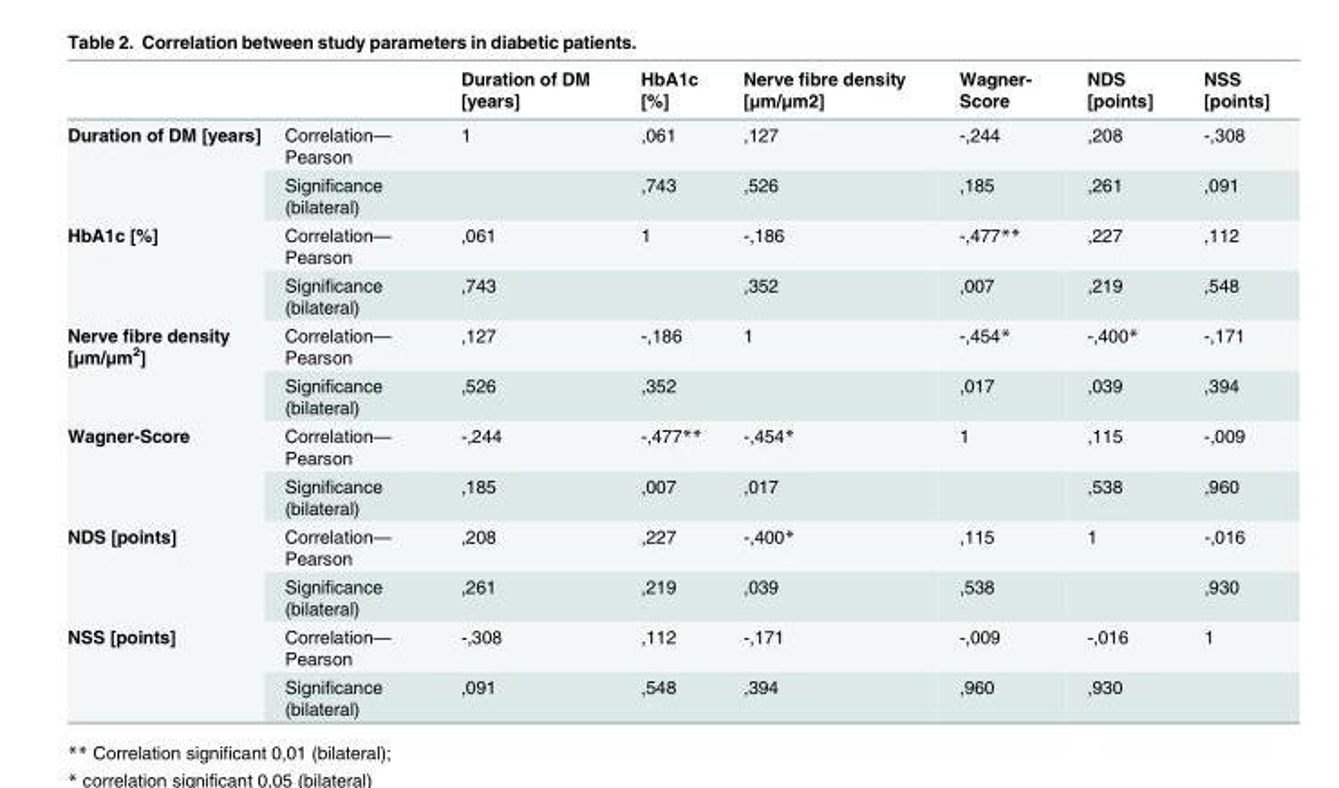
<table><thead><tr><td></td><td></td><td>Duration of DM [years]</td><td>HbA1c [%]</td><td>Nerve fibre density [μm/μm2]</td><td>Wagner- Score</td><td>NDS [points]</td><td>NSS [points]</td></tr></thead><tbody><tr><td rowspan="2">Duration of DM [years]</td><td>Correlation— Pearson</td><td>1</td><td>,061</td><td>,127</td><td>-,244</td><td>,208</td><td>-,308</td></tr><tr><td>Significance (bilateral)</td><td></td><td>,743</td><td>,526</td><td>,185</td><td>,261</td><td>,091</td></tr><tr><td rowspan="2">HbA1c [%]</td><td>Correlation— Pearson</td><td>,061</td><td>1</td><td>-,186</td><td>-,477**</td><td>,227</td><td>,112</td></tr><tr><td>Significance (bilateral)</td><td>,743</td><td></td><td>,352</td><td>,007</td><td>,219</td><td>,548</td></tr><tr><td rowspan="2">Nerve fibre density [μm/μm<sup>2</sup>]</td><td>Correlation— Pearson</td><td>,127</td><td>-,186</td><td>1</td><td>-,454*</td><td>-,400*</td><td>-,171</td></tr><tr><td>Significance (bilateral)</td><td>,526</td><td>,352</td><td></td><td>,017</td><td>,039</td><td>,394</td></tr><tr><td rowspan="2">Wagner-Score</td><td>Correlation— Pearson</td><td>-,244</td><td>-,477**</td><td>-,454*</td><td>1</td><td>,115</td><td>-,009</td></tr><tr><td>Significance (bilateral)</td><td>,185</td><td>,007</td><td>,017</td><td></td><td>,538</td><td>,960</td></tr><tr><td rowspan="2">NDS [points]</td><td>Correlation— Pearson</td><td>,208</td><td>,227</td><td>-,400*</td><td>,115</td><td>1</td><td>-,016</td></tr><tr><td>Significance (bilateral)</td><td>,261</td><td>,219</td><td>,039</td><td>,538</td><td></td><td>,930</td></tr><tr><td rowspan="2">NSS [points]</td><td>Correlation— Pearson</td><td>-,308</td><td>,112</td><td>-,171</td><td>-,009</td><td>-,016</td><td>1</td></tr><tr><td>Significance (bilateral)</td><td>,091</td><td>,548</td><td>,394</td><td>,960</td><td>,930</td><td></td></tr></tbody></table>